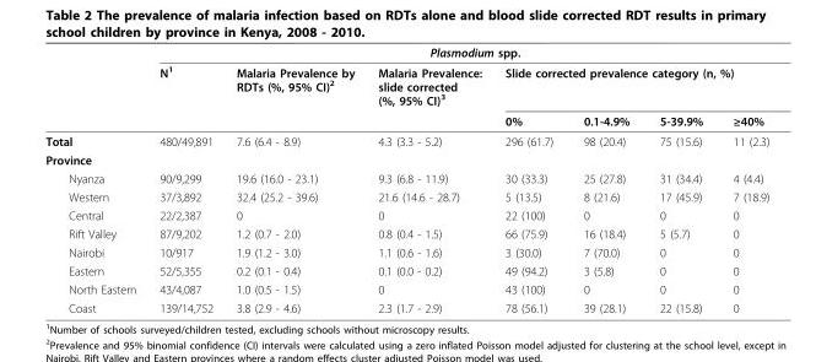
<table><thead><tr><td rowspan="3"></td><td colspan="7">Plasmodium spp.</td></tr><tr><td rowspan="2">N<sup>1</sup></td><td rowspan="2">Malaria Prevalence by RDTs (%, 95% CI)<sup>2</sup></td><td rowspan="2">Malaria Prevalence: slide corrected (%, 95% CI)<sup>3</sup></td><td colspan="4">Slide corrected prevalence category (n, %)</td></tr><tr><td>0%</td><td>0.1-4.9%</td><td>5-39.9%</td><td>≥40%</td></tr></thead><tbody><tr><td>Total</td><td>480/49,891</td><td>7.6 (6.4 - 8.9)</td><td>4.3 (3.3 - 5.2)</td><td>296 (61.7)</td><td>98 (20.4)</td><td>75 (15.6)</td><td>11 (2.3)</td></tr><tr><td colspan="8">Province</td></tr><tr><td>Nyanza</td><td>90/9,299</td><td>19.6 (16.0 - 23.1)</td><td>9.3 (6.8 - 11.9)</td><td>30 (33.3)</td><td>25 (27.8)</td><td>31 (34.4)</td><td>4 (4.4)</td></tr><tr><td>Western</td><td>37/3,892</td><td>32.4 (25.2 - 39.6)</td><td>21.6 (14.6 - 28.7)</td><td>5 (13.5)</td><td>8 (21.6)</td><td>17 (45.9)</td><td>7 (18.9)</td></tr><tr><td>Central</td><td>22/2,387</td><td>0</td><td>0</td><td>22 (100)</td><td>0</td><td>0</td><td>0</td></tr><tr><td>Rift Valley</td><td>87/9,202</td><td>1.2 (0.7 - 2.0)</td><td>0.8 (0.4 - 1.5)</td><td>66 (75.9)</td><td>16 (18.4)</td><td>5 (5.7)</td><td>0</td></tr><tr><td>Nairobi</td><td>10/917</td><td>1.9 (1.2 - 3.0)</td><td>1.1 (0.6 - 1.6)</td><td>3 (30.0)</td><td>7 (70.0)</td><td>0</td><td>0</td></tr><tr><td>Eastern</td><td>52/5,355</td><td>0.2 (0.1 - 0.4)</td><td>0.1 (0.0 - 0.2)</td><td>49 (94.2)</td><td>3 (5.8)</td><td>0</td><td>0</td></tr><tr><td>North Eastern</td><td>43/4,087</td><td>1.0 (0.5 - 1.5)</td><td>0</td><td>43 (100)</td><td>0</td><td>0</td><td>0</td></tr><tr><td>Coast</td><td>139/14,752</td><td>3.8 (2.9 - 4.6)</td><td>2.3 (1.7 - 2.9)</td><td>78 (56.1)</td><td>39 (28.1)</td><td>22 (15.8)</td><td>0</td></tr></tbody></table>